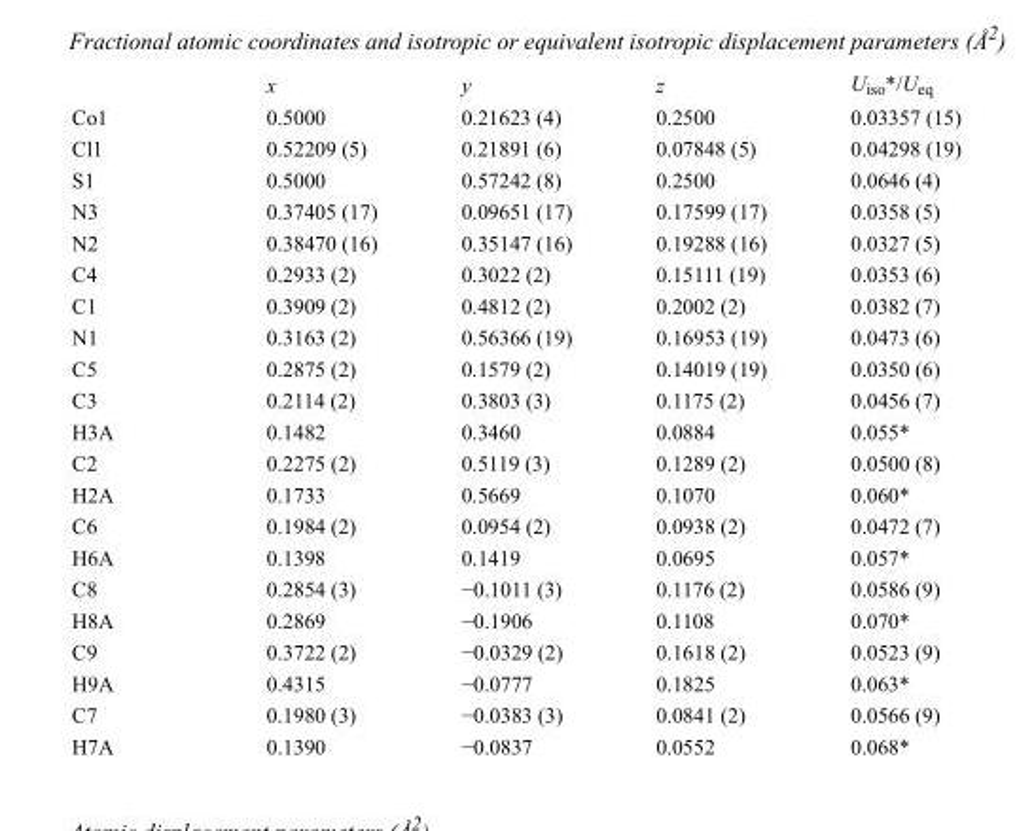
<table><thead><tr><td></td><td>x</td><td>y</td><td>z</td><td>U<sub>iso</sub>*/U<sub>eq</sub></td></tr></thead><tbody><tr><td>Co1</td><td>0.5000</td><td>0.21623 (4)</td><td>0.2500</td><td>0.03357 (15)</td></tr><tr><td>Cl1</td><td>0.52209 (5)</td><td>0.21891 (6)</td><td>0.07848 (5)</td><td>0.04298 (19)</td></tr><tr><td>S1</td><td>0.5000</td><td>0.57242 (8)</td><td>0.2500</td><td>0.0646 (4)</td></tr><tr><td>N3</td><td>0.37405 (17)</td><td>0.09651 (17)</td><td>0.17599 (17)</td><td>0.0358 (5)</td></tr><tr><td>N2</td><td>0.38470 (16)</td><td>0.35147 (16)</td><td>0.19288 (16)</td><td>0.0327 (5)</td></tr><tr><td>C4</td><td>0.2933 (2)</td><td>0.3022 (2)</td><td>0.15111 (19)</td><td>0.0353 (6)</td></tr><tr><td>C1</td><td>0.3909 (2)</td><td>0.4812 (2)</td><td>0.2002 (2)</td><td>0.0382 (7)</td></tr><tr><td>N1</td><td>0.3163 (2)</td><td>0.56366 (19)</td><td>0.16953 (19)</td><td>0.0473 (6)</td></tr><tr><td>C5</td><td>0.2875 (2)</td><td>0.1579 (2)</td><td>0.14019 (19)</td><td>0.0350 (6)</td></tr><tr><td>C3</td><td>0.2114 (2)</td><td>0.3803 (3)</td><td>0.1175 (2)</td><td>0.0456 (7)</td></tr><tr><td>H3A</td><td>0.1482</td><td>0.3460</td><td>0.0884</td><td>0.055*</td></tr><tr><td>C2</td><td>0.2275 (2)</td><td>0.5119 (3)</td><td>0.1289 (2)</td><td>0.0500 (8)</td></tr><tr><td>H2A</td><td>0.1733</td><td>0.5669</td><td>0.1070</td><td>0.060*</td></tr><tr><td>C6</td><td>0.1984 (2)</td><td>0.0954 (2)</td><td>0.0938 (2)</td><td>0.0472 (7)</td></tr><tr><td>H6A</td><td>0.1398</td><td>0.1419</td><td>0.0695</td><td>0.057*</td></tr><tr><td>C8</td><td>0.2854 (3)</td><td>−0.1011 (3)</td><td>0.1176 (2)</td><td>0.0586 (9)</td></tr><tr><td>H8A</td><td>0.2869</td><td>−0.1906</td><td>0.1108</td><td>0.070*</td></tr><tr><td>C9</td><td>0.3722 (2)</td><td>−0.0329 (2)</td><td>0.1618 (2)</td><td>0.0523 (9)</td></tr><tr><td>H9A</td><td>0.4315</td><td>−0.0777</td><td>0.1825</td><td>0.063*</td></tr><tr><td>C7</td><td>0.1980 (3)</td><td>−0.0383 (3)</td><td>0.0841 (2)</td><td>0.0566 (9)</td></tr><tr><td>H7A</td><td>0.1390</td><td>−0.0837</td><td>0.0552</td><td>0.068*</td></tr></tbody></table>